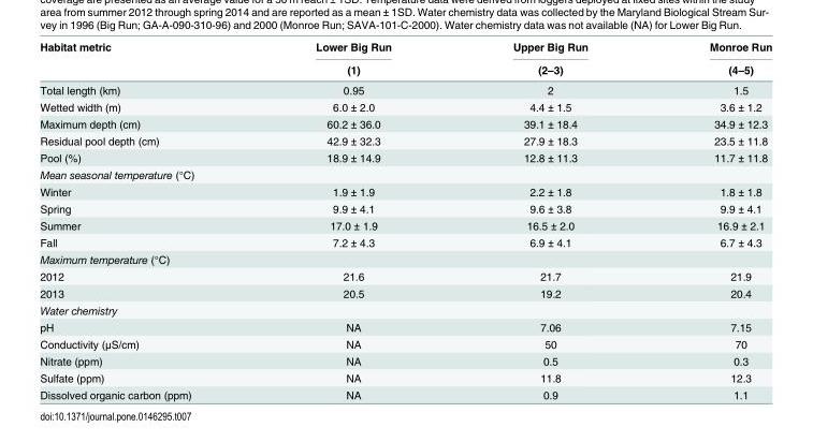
<table><thead><tr><td rowspan="2">Habitat metric</td><td rowspan="2">Lower Big Run (1)</td><td rowspan="2">Upper Big Run (2–3)</td><td rowspan="2">Monroe Run (4–5)</td></tr><tr></tr></thead><tbody><tr><td>Total length (km)</td><td>0.95</td><td>2</td><td>1.5</td></tr><tr><td>Wetted width (m)</td><td>6.0 ± 2.0</td><td>4.4 ± 1.5</td><td>3.6 ± 1.2</td></tr><tr><td>Maximum depth (cm)</td><td>60.2 ± 36.0</td><td>39.1 ± 18.4</td><td>34.9 ± 12.3</td></tr><tr><td>Residual pool depth (cm)</td><td>42.9 ± 32.3</td><td>27.9 ± 18.3</td><td>23.5 ± 11.8</td></tr><tr><td>Pool (%)</td><td>18.9 ± 14.9</td><td>12.8 ± 11.3</td><td>11.7 ± 11.8</td></tr><tr><td colspan="4">Mean seasonal temperature (°C)</td></tr><tr><td>Winter</td><td>1.9 ± 1.9</td><td>2.2 ± 1.8</td><td>1.8 ± 1.8</td></tr><tr><td>Spring</td><td>9.9 ± 4.1</td><td>9.6 ± 3.8</td><td>9.9 ± 4.1</td></tr><tr><td>Summer</td><td>17.0 ± 1.9</td><td>16.5 ± 2.0</td><td>16.9 ± 2.1</td></tr><tr><td>Fall</td><td>7.2 ± 4.3</td><td>6.9 ± 4.1</td><td>6.7 ± 4.3</td></tr><tr><td colspan="4">Maximum temperature (°C)</td></tr><tr><td>2012</td><td>21.6</td><td>21.7</td><td>21.9</td></tr><tr><td>2013</td><td>20.5</td><td>19.2</td><td>20.4</td></tr><tr><td colspan="4">Water chemistry</td></tr><tr><td>pH</td><td>NA</td><td>7.06</td><td>7.15</td></tr><tr><td>Conductivity (μS/cm)</td><td>NA</td><td>50</td><td>70</td></tr><tr><td>Nitrate (ppm)</td><td>NA</td><td>0.5</td><td>0.3</td></tr><tr><td>Sulfate (ppm)</td><td>NA</td><td>11.8</td><td>12.3</td></tr><tr><td>Dissolved organic carbon (ppm)</td><td>NA</td><td>0.9</td><td>1.1</td></tr></tbody></table>